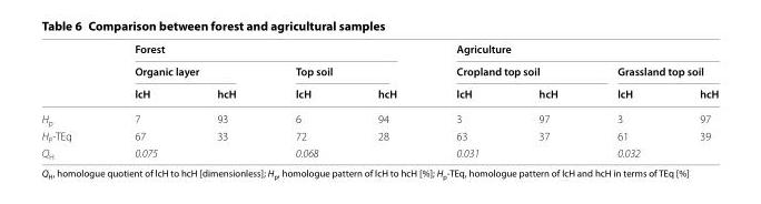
<table><thead><tr><td rowspan="3"></td><td colspan="4">Forest</td><td colspan="4">Agriculture</td></tr><tr><td colspan="2">Organic layer</td><td colspan="2">Top soil</td><td colspan="2">Cropland top soil</td><td colspan="2">Grassland top soil</td></tr><tr><td>lcH</td><td>hcH</td><td>lcH</td><td>hcH</td><td>lcH</td><td>hcH</td><td>lcH</td><td>hcH</td></tr></thead><tbody><tr><td>H<sub>p</sub></td><td>7</td><td>93</td><td>6</td><td>94</td><td>3</td><td>97</td><td>3</td><td>97</td></tr><tr><td>H<sub>P</sub>-TEq</td><td>67</td><td>33</td><td>72</td><td>28</td><td>63</td><td>37</td><td>61</td><td>39</td></tr><tr><td>Q<sub>H</sub></td><td colspan="2">0.075</td><td colspan="2">0.068</td><td colspan="2">0.031</td><td colspan="2">0.032</td></tr></tbody></table>